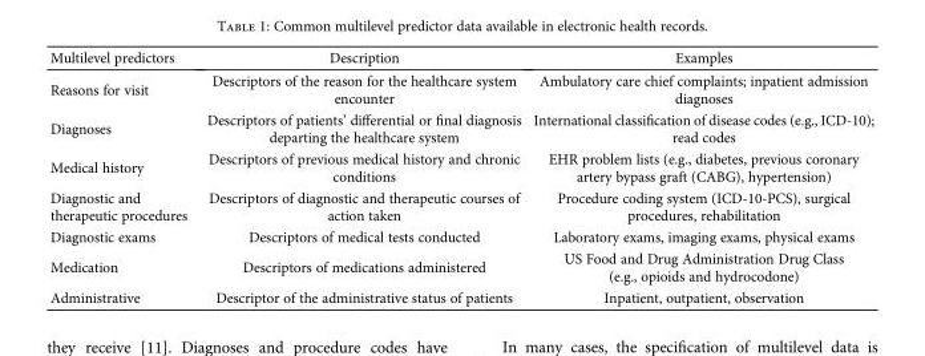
<table><thead><tr><td>Multilevel predictors</td><td>Description</td><td>Examples</td></tr></thead><tbody><tr><td>Reasons for visit</td><td>Descriptors of the reason for the healthcare system encounter</td><td>Ambulatory care chief complaints; inpatient admission diagnoses</td></tr><tr><td>Diagnoses</td><td>Descriptors of patients’ differential or final diagnosis departing the healthcare system</td><td>International classification of disease codes (e.g., ICD-10); read codes</td></tr><tr><td>Medical history</td><td>Descriptors of previous medical history and chronic conditions</td><td>EHR problem lists (e.g., diabetes, previous coronary artery bypass graft (CABG), hypertension)</td></tr><tr><td>Diagnostic and therapeutic procedures</td><td>Descriptors of diagnostic and therapeutic courses of action taken</td><td>Procedure coding system (ICD-10-PCS), surgical procedures, rehabilitation</td></tr><tr><td>Diagnostic exams</td><td>Descriptors of medical tests conducted</td><td>Laboratory exams, imaging exams, physical exams</td></tr><tr><td>Medication</td><td>Descriptors of medications administered</td><td>US Food and Drug Administration Drug Class (e.g., opioids and hydrocodone)</td></tr><tr><td>Administrative</td><td>Descriptor of the administrative status of patients</td><td>Inpatient, outpatient, observation</td></tr></tbody></table>